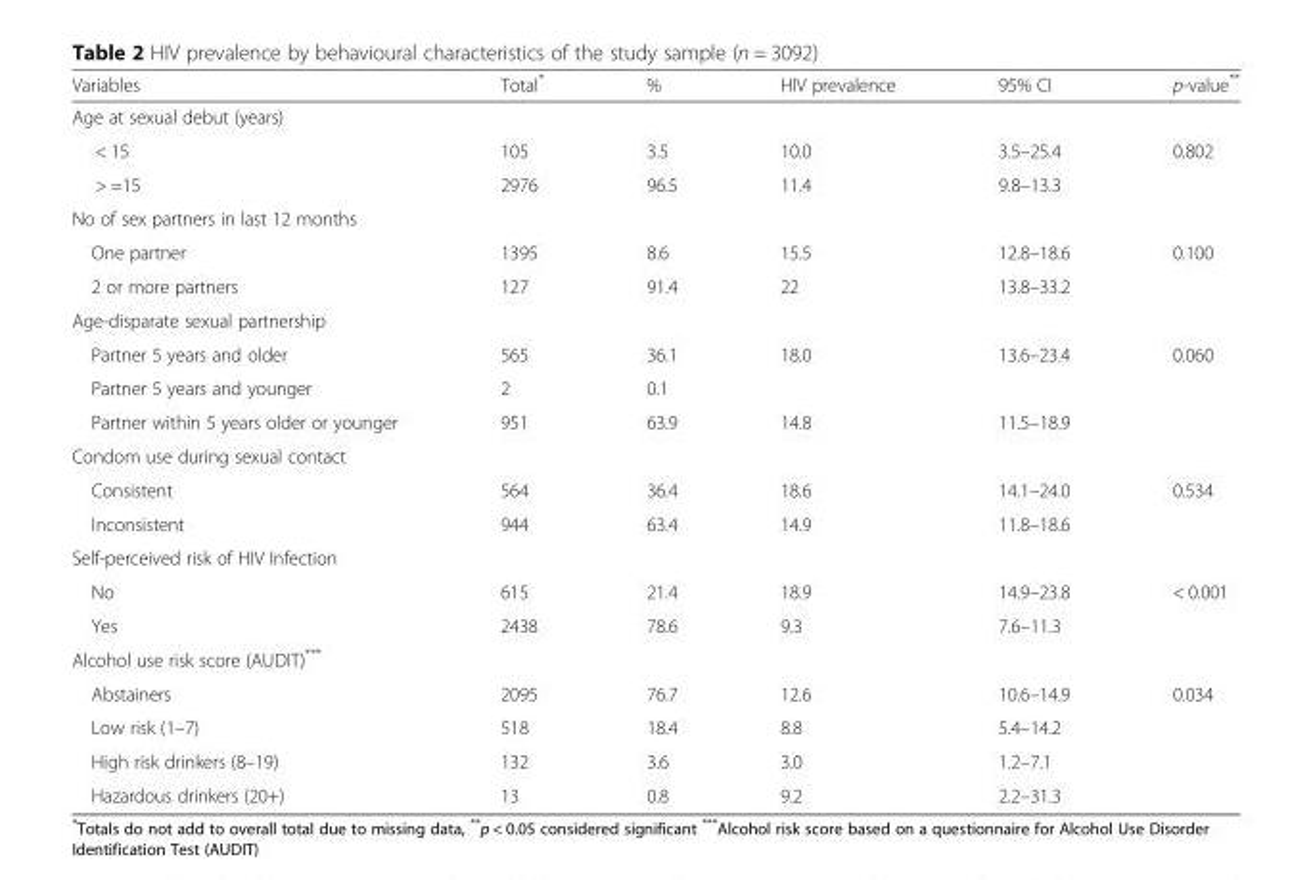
<table><thead><tr><td>Variables</td><td>Total*</td><td>%</td><td>HIV prevalence</td><td>95% CI</td><td>p-value**</td></tr></thead><tbody><tr><td colspan="6">Age at sexual debut (years)</td></tr><tr><td>&lt; 15</td><td>105</td><td>3.5</td><td>10.0</td><td>3.5–25.4</td><td>0.802</td></tr><tr><td>&gt; =15</td><td>2976</td><td>96.5</td><td>11.4</td><td>9.8–13.3</td><td></td></tr><tr><td colspan="6">No of sex partners in last 12 months</td></tr><tr><td>One partner</td><td>1395</td><td>8.6</td><td>15.5</td><td>12.8–18.6</td><td>0.100</td></tr><tr><td>2 or more partners</td><td>127</td><td>91.4</td><td>22</td><td>13.8–33.2</td><td></td></tr><tr><td colspan="6">Age-disparate sexual partnership</td></tr><tr><td>Partner 5 years and older</td><td>565</td><td>36.1</td><td>18.0</td><td>13.6–23.4</td><td>0.060</td></tr><tr><td>Partner 5 years and younger</td><td>2</td><td>0.1</td><td></td><td></td><td></td></tr><tr><td>Partner within 5 years older or younger</td><td>951</td><td>63.9</td><td>14.8</td><td>11.5–18.9</td><td></td></tr><tr><td colspan="6">Condom use during sexual contact</td></tr><tr><td>Consistent</td><td>564</td><td>36.4</td><td>18.6</td><td>14.1–24.0</td><td>0.534</td></tr><tr><td>Inconsistent</td><td>944</td><td>63.4</td><td>14.9</td><td>11.8–18.6</td><td></td></tr><tr><td colspan="6">Self-perceived risk of HIV Infection</td></tr><tr><td>No</td><td>615</td><td>21.4</td><td>18.9</td><td>14.9–23.8</td><td>&lt; 0.001</td></tr><tr><td>Yes</td><td>2438</td><td>78.6</td><td>9.3</td><td>7.6–11.3</td><td></td></tr><tr><td colspan="6">Alcohol use risk score (AUDIT)***</td></tr><tr><td>Abstainers</td><td>2095</td><td>76.7</td><td>12.6</td><td>10.6–14.9</td><td>0.034</td></tr><tr><td>Low risk (1–7)</td><td>518</td><td>18.4</td><td>8.8</td><td>5.4–14.2</td><td></td></tr><tr><td>High risk drinkers (8–19)</td><td>132</td><td>3.6</td><td>3.0</td><td>1.2–7.1</td><td></td></tr><tr><td>Hazardous drinkers (20+)</td><td>13</td><td>0.8</td><td>9.2</td><td>2.2–31.3</td><td></td></tr></tbody></table>